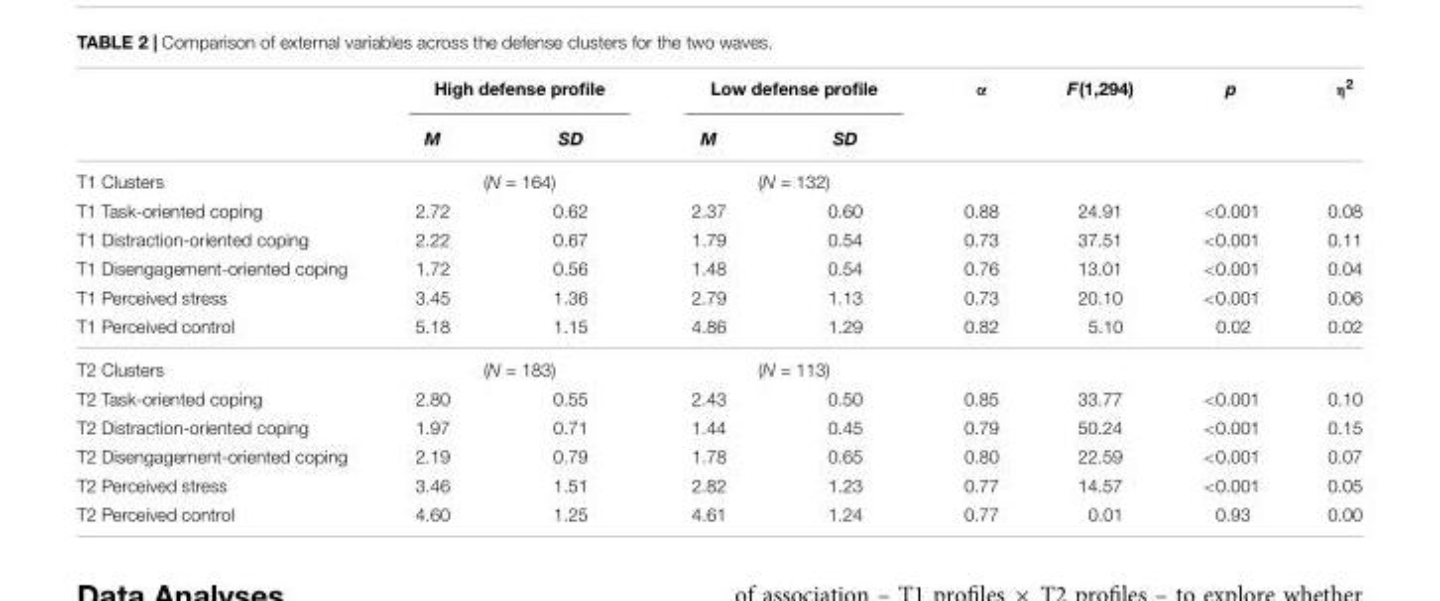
<table><thead><tr><td rowspan="2"></td><td colspan="2">High defense profile</td><td colspan="2">Low defense profile</td><td rowspan="2">α</td><td rowspan="2">F(1,294)</td><td rowspan="2">p</td><td rowspan="2">η<sup>2</sup></td></tr><tr><td>M</td><td>SD</td><td>M</td><td>SD</td></tr></thead><tbody><tr><td>T1 Clusters</td><td colspan="2">(N = 164)</td><td colspan="2">(N = 132)</td><td></td><td></td><td></td><td></td></tr><tr><td>T1 Task-oriented coping</td><td>2.72</td><td>0.62</td><td>2.37</td><td>0.60</td><td>0.88</td><td>24.91</td><td>&lt;0.001</td><td>0.08</td></tr><tr><td>T1 Distraction-oriented coping</td><td>2.22</td><td>0.67</td><td>1.79</td><td>0.54</td><td>0.73</td><td>37.51</td><td>&lt;0.001</td><td>0.11</td></tr><tr><td>T1 Disengagement-oriented coping</td><td>1.72</td><td>0.56</td><td>1.48</td><td>0.54</td><td>0.76</td><td>13.01</td><td>&lt;0.001</td><td>0.04</td></tr><tr><td>T1 Perceived stress</td><td>3.45</td><td>1.36</td><td>2.79</td><td>1.13</td><td>0.73</td><td>20.10</td><td>&lt;0.001</td><td>0.06</td></tr><tr><td>T1 Perceived control</td><td>5.18</td><td>1.15</td><td>4.86</td><td>1.29</td><td>0.82</td><td>5.10</td><td>0.02</td><td>0.02</td></tr><tr><td>T2 Clusters</td><td colspan="2">(N = 183)</td><td colspan="2">(N = 113)</td><td></td><td></td><td></td><td></td></tr><tr><td>T2 Task-oriented coping</td><td>2.80</td><td>0.55</td><td>2.43</td><td>0.50</td><td>0.85</td><td>33.77</td><td>&lt;0.001</td><td>0.10</td></tr><tr><td>T2 Distraction-oriented coping</td><td>1.97</td><td>0.71</td><td>1.44</td><td>0.45</td><td>0.79</td><td>50.24</td><td>&lt;0.001</td><td>0.15</td></tr><tr><td>T2 Disengagement-oriented coping</td><td>2.19</td><td>0.79</td><td>1.78</td><td>0.65</td><td>0.80</td><td>22.59</td><td>&lt;0.001</td><td>0.07</td></tr><tr><td>T2 Perceived stress</td><td>3.46</td><td>1.51</td><td>2.82</td><td>1.23</td><td>0.77</td><td>14.57</td><td>&lt;0.001</td><td>0.05</td></tr><tr><td>T2 Perceived control</td><td>4.60</td><td>1.25</td><td>4.61</td><td>1.24</td><td>0.77</td><td>0.01</td><td>0.93</td><td>0.00</td></tr></tbody></table>